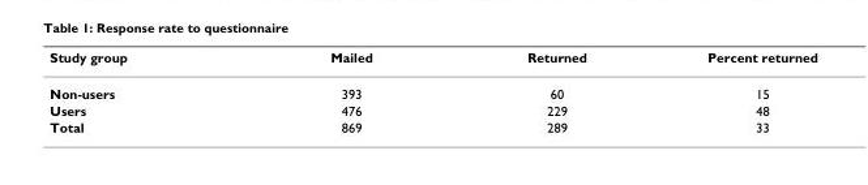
<table><thead><tr><td>Study group</td><td>Mailed</td><td>Returned</td><td>Percent returned</td></tr></thead><tbody><tr><td>Non-users</td><td>393</td><td>60</td><td>15</td></tr><tr><td>Users</td><td>476</td><td>229</td><td>48</td></tr><tr><td>Total</td><td>869</td><td>289</td><td>33</td></tr></tbody></table>